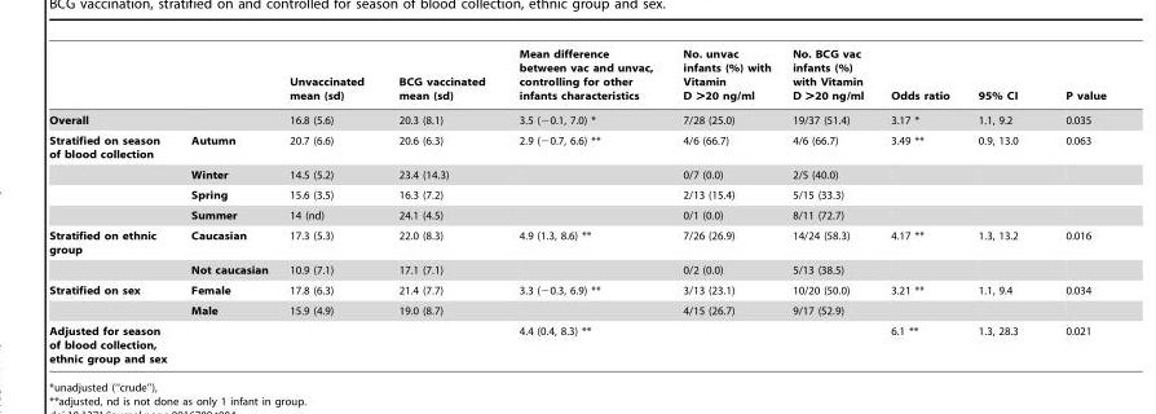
<table><thead><tr><td></td><td></td><td>Unvaccinated mean (sd)</td><td>BCG vaccinated mean (sd)</td><td>Mean difference between vac and unvac, controlling for other infants characteristics</td><td>No. unvac infants (%) with Vitamin D &gt;20 ng/ml</td><td>No. BCG vac infants (%) with Vitamin D &gt;20 ng/ml</td><td>Odds ratio</td><td>95% CI</td><td>P value</td></tr></thead><tbody><tr><td>Overall</td><td></td><td>16.8 (5.6)</td><td>20.3 (8.1)</td><td>3.5 (−0.1, 7.0) *</td><td>7/28 (25.0)</td><td>19/37 (51.4)</td><td>3.17 *</td><td>1.1, 9.2</td><td>0.035</td></tr><tr><td rowspan="4">Stratified on season of blood collection</td><td>Autumn</td><td>20.7 (6.6)</td><td>20.6 (6.3)</td><td>2.9 (−0.7, 6.6) **</td><td>4/6 (66.7)</td><td>4/6 (66.7)</td><td>3.49 **</td><td>0.9, 13.0</td><td>0.063</td></tr><tr><td>Winter</td><td>14.5 (5.2)</td><td>23.4 (14.3)</td><td></td><td>0/7 (0.0)</td><td>2/5 (40.0)</td><td></td><td></td><td></td></tr><tr><td>Spring</td><td>15.6 (3.5)</td><td>16.3 (7.2)</td><td></td><td>2/13 (15.4)</td><td>5/15 (33.3)</td><td></td><td></td><td></td></tr><tr><td>Summer</td><td>14 (nd)</td><td>24.1 (4.5)</td><td></td><td>0/1 (0.0)</td><td>8/11 (72.7)</td><td></td><td></td><td></td></tr><tr><td rowspan="2">Stratified on ethnic group</td><td>Caucasian</td><td>17.3 (5.3)</td><td>22.0 (8.3)</td><td>4.9 (1.3, 8.6) **</td><td>7/26 (26.9)</td><td>14/24 (58.3)</td><td>4.17 **</td><td>1.3, 13.2</td><td>0.016</td></tr><tr><td>Not caucasian</td><td>10.9 (7.1)</td><td>17.1 (7.1)</td><td></td><td>0/2 (0.0)</td><td>5/13 (38.5)</td><td></td><td></td><td></td></tr><tr><td rowspan="2">Stratified on sex</td><td>Female</td><td>17.8 (6.3)</td><td>21.4 (7.7)</td><td>3.3 (−0.3, 6.9) **</td><td>3/13 (23.1)</td><td>10/20 (50.0)</td><td>3.21 **</td><td>1.1, 9.4</td><td>0.034</td></tr><tr><td>Male</td><td>15.9 (4.9)</td><td>19.0 (8.7)</td><td></td><td>4/15 (26.7)</td><td>9/17 (52.9)</td><td></td><td></td><td></td></tr><tr><td>Adjusted for season of blood collection, ethnic group and sex</td><td></td><td></td><td></td><td>4.4 (0.4, 8.3) **</td><td></td><td></td><td>6.1 **</td><td>1.3, 28.3</td><td>0.021</td></tr></tbody></table>